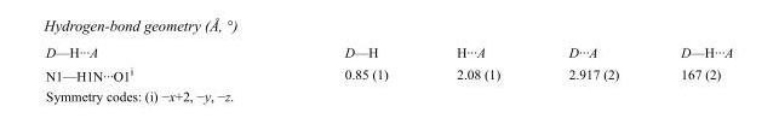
<table><tbody><tr><td>D—H···A</td><td>D—H</td><td>H···A</td><td>D···A</td><td>D—H···A</td></tr><tr><td>N1—H1N···O1<sup>i</sup></td><td>0.85 (1)</td><td>2.08 (1)</td><td>2.917 (2)</td><td>167 (2)</td></tr></tbody></table>